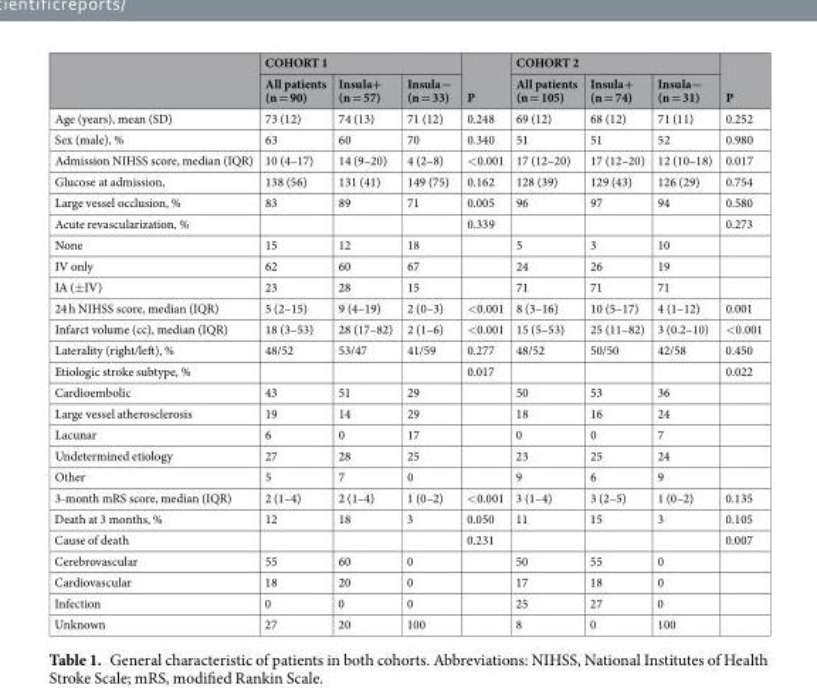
<table><thead><tr><td rowspan="2"></td><td colspan="3">COHORT 1</td><td rowspan="2">P</td><td colspan="3">COHORT 2</td><td rowspan="2">P</td></tr><tr><td>All patients (n = 90)</td><td>Insula+ (n = 57)</td><td>Insula− (n = 33)</td><td>All patients (n = 105)</td><td>Insula+ (n = 74)</td><td>Insula− (n = 31)</td></tr></thead><tbody><tr><td>Age (years), mean (SD)</td><td>73 (12)</td><td>74 (13)</td><td>71 (12)</td><td>0.248</td><td>69 (12)</td><td>68 (12)</td><td>71 (11)</td><td>0.252</td></tr><tr><td>Sex (male), %</td><td>63</td><td>60</td><td>70</td><td>0.340</td><td>51</td><td>51</td><td>52</td><td>0.980</td></tr><tr><td>Admission NIHSS score, median (IQR)</td><td>10 (4–17)</td><td>14 (9–20)</td><td>4 (2–8)</td><td>&lt;0.001</td><td>17 (12–20)</td><td>17 (12–20)</td><td>12 (10–18)</td><td>0.017</td></tr><tr><td>Glucose at admission,</td><td>138 (56)</td><td>131 (41)</td><td>149 (75)</td><td>0.162</td><td>128 (39)</td><td>129 (43)</td><td>126 (29)</td><td>0.754</td></tr><tr><td>Large vessel occlusion, %</td><td>83</td><td>89</td><td>71</td><td>0.005</td><td>96</td><td>97</td><td>94</td><td>0.580</td></tr><tr><td>Acute revascularization, %</td><td></td><td></td><td></td><td>0.339</td><td></td><td></td><td></td><td>0.273</td></tr><tr><td>None</td><td>15</td><td>12</td><td>18</td><td></td><td>5</td><td>3</td><td>10</td><td></td></tr><tr><td>IV only</td><td>62</td><td>60</td><td>67</td><td></td><td>24</td><td>26</td><td>19</td><td></td></tr><tr><td>IA (±IV)</td><td>23</td><td>28</td><td>15</td><td></td><td>71</td><td>71</td><td>71</td><td></td></tr><tr><td>24 h NIHSS score, median (IQR)</td><td>5 (2–15)</td><td>9 (4–19)</td><td>2 (0–3)</td><td>&lt;0.001</td><td>8 (3–16)</td><td>10 (5–17)</td><td>4 (1–12)</td><td>0.001</td></tr><tr><td>Infarct volume (cc), median (IQR)</td><td>18 (3–53)</td><td>28 (17–82)</td><td>2 (1–6)</td><td>&lt;0.001</td><td>15 (5–53)</td><td>25 (11–82)</td><td>3 (0.2–10)</td><td>&lt;0.001</td></tr><tr><td>Laterality (right/left), %</td><td>48/52</td><td>53/47</td><td>41/59</td><td>0.277</td><td>48/52</td><td>50/50</td><td>42/58</td><td>0.450</td></tr><tr><td>Etiologic stroke subtype, %</td><td></td><td></td><td></td><td>0.017</td><td></td><td></td><td></td><td>0.022</td></tr><tr><td>Cardioembolic</td><td>43</td><td>51</td><td>29</td><td></td><td>50</td><td>53</td><td>36</td><td></td></tr><tr><td>Large vessel atherosclerosis</td><td>19</td><td>14</td><td>29</td><td></td><td>18</td><td>16</td><td>24</td><td></td></tr><tr><td>Lacunar</td><td>6</td><td>0</td><td>17</td><td></td><td>0</td><td>0</td><td>7</td><td></td></tr><tr><td>Undetermined etiology</td><td>27</td><td>28</td><td>25</td><td></td><td>23</td><td>25</td><td>24</td><td></td></tr><tr><td>Other</td><td>5</td><td>7</td><td>0</td><td></td><td>9</td><td>6</td><td>9</td><td></td></tr><tr><td>3-month mRS score, median (IQR)</td><td>2 (1–4)</td><td>2 (1–4)</td><td>1 (0–2)</td><td>&lt;0.001</td><td>3 (1–4)</td><td>3 (2–5)</td><td>1 (0–2)</td><td>0.135</td></tr><tr><td>Death at 3 months, %</td><td>12</td><td>18</td><td>3</td><td>0.050</td><td>11</td><td>15</td><td>3</td><td>0.105</td></tr><tr><td>Cause of death</td><td></td><td></td><td></td><td>0.231</td><td></td><td></td><td></td><td>0.007</td></tr><tr><td>Cerebrovascular</td><td>55</td><td>60</td><td>0</td><td></td><td>50</td><td>55</td><td>0</td><td></td></tr><tr><td>Cardiovascular</td><td>18</td><td>20</td><td>0</td><td></td><td>17</td><td>18</td><td>0</td><td></td></tr><tr><td>Infection</td><td>0</td><td>0</td><td>0</td><td></td><td>25</td><td>27</td><td>0</td><td></td></tr><tr><td>Unknown</td><td>27</td><td>20</td><td>100</td><td></td><td>8</td><td>0</td><td>100</td><td></td></tr></tbody></table>